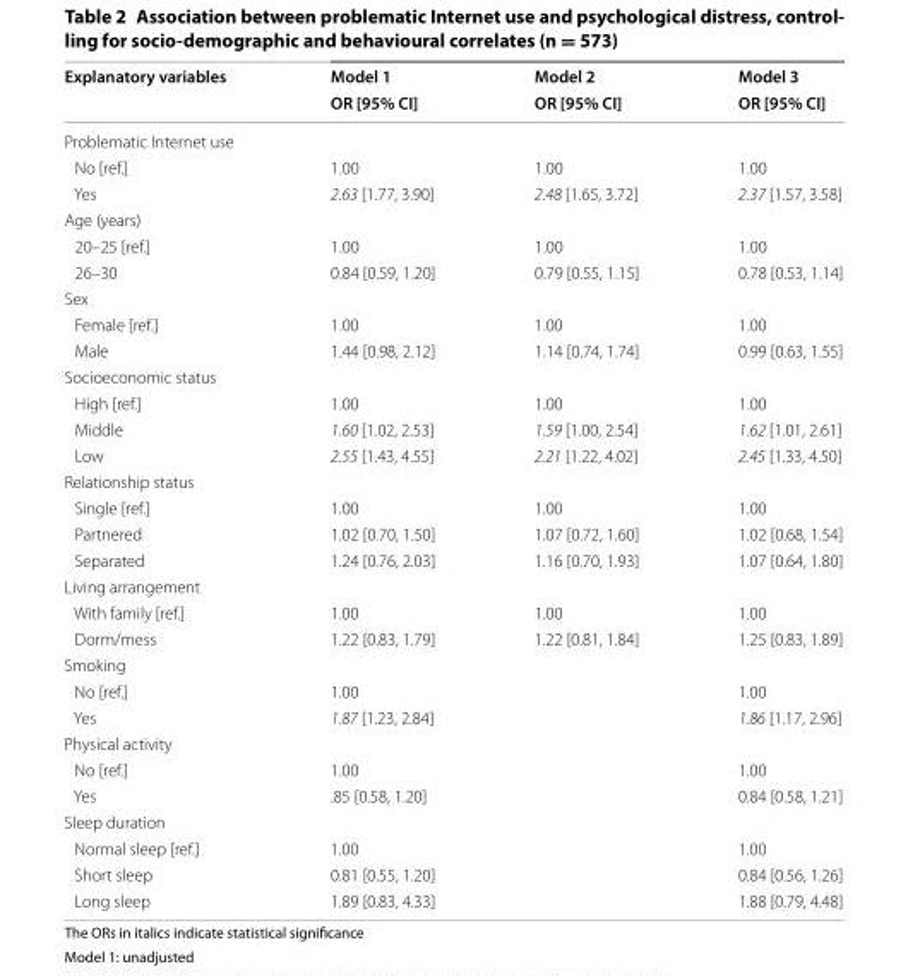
<table><thead><tr><td rowspan="2">Explanatory variables</td><td rowspan="2">Model 1 OR [95% CI]</td><td rowspan="2">Model 2 OR [95% CI]</td><td rowspan="2">Model 3 OR [95% CI]</td></tr><tr></tr></thead><tbody><tr><td colspan="4">Problematic Internet use</td></tr><tr><td>No [ref.]</td><td>1.00</td><td>1.00</td><td>1.00</td></tr><tr><td>Yes</td><td>2.63 [1.77, 3.90]</td><td>2.48 [1.65, 3.72]</td><td>2.37 [1.57, 3.58]</td></tr><tr><td colspan="4">Age (years)</td></tr><tr><td>20–25 [ref.]</td><td>1.00</td><td>1.00</td><td>1.00</td></tr><tr><td>26–30</td><td>0.84 [0.59, 1.20]</td><td>0.79 [0.55, 1.15]</td><td>0.78 [0.53, 1.14]</td></tr><tr><td colspan="4">Sex</td></tr><tr><td>Female [ref.]</td><td>1.00</td><td>1.00</td><td>1.00</td></tr><tr><td>Male</td><td>1.44 [0.98, 2.12]</td><td>1.14 [0.74, 1.74]</td><td>0.99 [0.63, 1.55]</td></tr><tr><td colspan="4">Socioeconomic status</td></tr><tr><td>High [ref.]</td><td>1.00</td><td>1.00</td><td>1.00</td></tr><tr><td>Middle</td><td>1.60 [1.02, 2.53]</td><td>1.59 [1.00, 2.54]</td><td>1.62 [1.01, 2.61]</td></tr><tr><td>Low</td><td>2.55 [1.43, 4.55]</td><td>2.21 [1.22, 4.02]</td><td>2.45 [1.33, 4.50]</td></tr><tr><td colspan="4">Relationship status</td></tr><tr><td>Single [ref.]</td><td>1.00</td><td>1.00</td><td>1.00</td></tr><tr><td>Partnered</td><td>1.02 [0.70, 1.50]</td><td>1.07 [0.72, 1.60]</td><td>1.02 [0.68, 1.54]</td></tr><tr><td>Separated</td><td>1.24 [0.76, 2.03]</td><td>1.16 [0.70, 1.93]</td><td>1.07 [0.64, 1.80]</td></tr><tr><td colspan="4">Living arrangement</td></tr><tr><td>With family [ref.]</td><td>1.00</td><td>1.00</td><td>1.00</td></tr><tr><td>Dorm/mess</td><td>1.22 [0.83, 1.79]</td><td>1.22 [0.81, 1.84]</td><td>1.25 [0.83, 1.89]</td></tr><tr><td colspan="4">Smoking</td></tr><tr><td>No [ref.]</td><td>1.00</td><td></td><td>1.00</td></tr><tr><td>Yes</td><td>1.87 [1.23, 2.84]</td><td></td><td>1.86 [1.17, 2.96]</td></tr><tr><td colspan="4">Physical activity</td></tr><tr><td>No [ref.]</td><td>1.00</td><td></td><td>1.00</td></tr><tr><td>Yes</td><td>.85 [0.58, 1.20]</td><td></td><td>0.84 [0.58, 1.21]</td></tr><tr><td colspan="4">Sleep duration</td></tr><tr><td>Normal sleep [ref.]</td><td>1.00</td><td></td><td>1.00</td></tr><tr><td>Short sleep</td><td>0.81 [0.55, 1.20]</td><td></td><td>0.84 [0.56, 1.26]</td></tr><tr><td>Long sleep</td><td>1.89 [0.83, 4.33]</td><td></td><td>1.88 [0.79, 4.48]</td></tr></tbody></table>